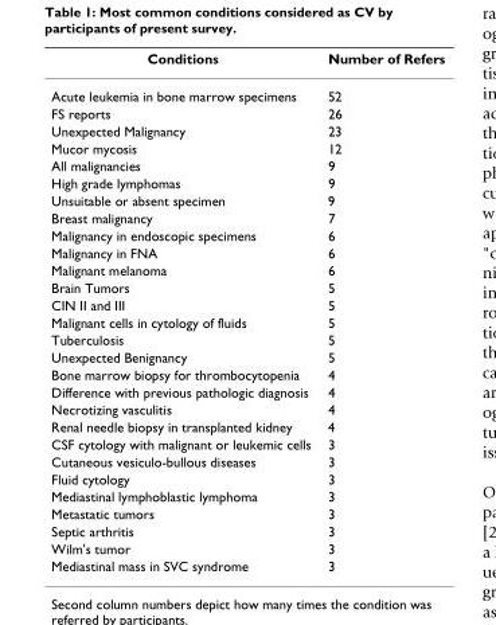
<table><thead><tr><td>Conditions</td><td>Number of Refers</td></tr></thead><tbody><tr><td>Acute leukemia in bone marrow specimens</td><td>52</td></tr><tr><td>FS reports</td><td>26</td></tr><tr><td>Unexpected Malignancy</td><td>23</td></tr><tr><td>Mucor mycosis</td><td>12</td></tr><tr><td>All malignancies</td><td>9</td></tr><tr><td>High grade lymphomas</td><td>9</td></tr><tr><td>Unsuitable or absent specimen</td><td>9</td></tr><tr><td>Breast malignancy</td><td>7</td></tr><tr><td>Malignancy in endoscopic specimens</td><td>6</td></tr><tr><td>Malignancy in FNA</td><td>6</td></tr><tr><td>Malignant melanoma</td><td>6</td></tr><tr><td>Brain Tumors</td><td>5</td></tr><tr><td>CIN II and III</td><td>5</td></tr><tr><td>Malignant cells in cytology of fluids</td><td>5</td></tr><tr><td>Tuberculosis</td><td>5</td></tr><tr><td>Unexpected Benignancy</td><td>5</td></tr><tr><td>Bone marrow biopsy for thrombocytopenia</td><td>4</td></tr><tr><td>Difference with previous pathologic diagnosis</td><td>4</td></tr><tr><td>Necrotizing vasculitis</td><td>4</td></tr><tr><td>Renal needle biopsy in transplanted kidney</td><td>4</td></tr><tr><td>CSF cytology with malignant or leukemic cells</td><td>3</td></tr><tr><td>Cutaneous vesiculo-bullous diseases</td><td>3</td></tr><tr><td>Fluid cytology</td><td>3</td></tr><tr><td>Mediastinal lymphoblastic lymphoma</td><td>3</td></tr><tr><td>Metastatic tumors</td><td>3</td></tr><tr><td>Septic arthritis</td><td>3</td></tr><tr><td>Wilm&#x27;s tumor</td><td>3</td></tr><tr><td>Mediastinal mass in SVC syndrome</td><td>3</td></tr></tbody></table>